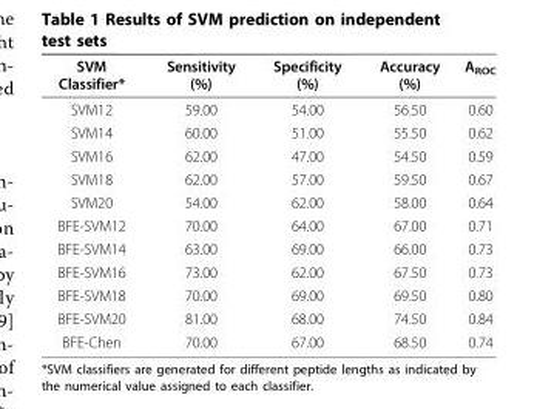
<table><thead><tr><td>SVM Classifier*</td><td>Sensitivity (%)</td><td>Specificity (%)</td><td>Accuracy (%)</td><td>A<sub>ROC</sub></td></tr></thead><tbody><tr><td>SVM12</td><td>59.00</td><td>54.00</td><td>56.50</td><td>0.60</td></tr><tr><td>SVM14</td><td>60.00</td><td>51.00</td><td>55.50</td><td>0.62</td></tr><tr><td>SVM16</td><td>62.00</td><td>47.00</td><td>54.50</td><td>0.59</td></tr><tr><td>SVM18</td><td>62.00</td><td>57.00</td><td>59.50</td><td>0.67</td></tr><tr><td>SVM20</td><td>54.00</td><td>62.00</td><td>58.00</td><td>0.64</td></tr><tr><td>BFE-SVM12</td><td>70.00</td><td>64.00</td><td>67.00</td><td>0.71</td></tr><tr><td>BFE-SVM14</td><td>63.00</td><td>69.00</td><td>66.00</td><td>0.73</td></tr><tr><td>BFE-SVM16</td><td>73.00</td><td>62.00</td><td>67.50</td><td>0.73</td></tr><tr><td>BFE-SVM18</td><td>70.00</td><td>69.00</td><td>69.50</td><td>0.80</td></tr><tr><td>BFE-SVM20</td><td>81.00</td><td>68.00</td><td>74.50</td><td>0.84</td></tr><tr><td>BFE-Chen</td><td>70.00</td><td>67.00</td><td>68.50</td><td>0.74</td></tr></tbody></table>